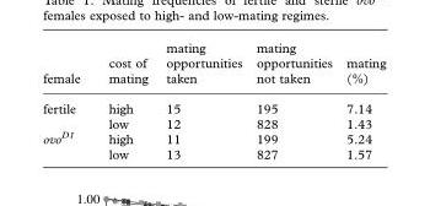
<table><thead><tr><td>female</td><td>cost of mating</td><td>mating opportunities taken</td><td>mating opportunities not taken</td><td>mating (%)</td></tr></thead><tbody><tr><td rowspan="2">fertile</td><td>high</td><td>15</td><td>195</td><td>7.14</td></tr><tr><td>low</td><td>12</td><td>828</td><td>1.43</td></tr><tr><td rowspan="2">ovo<sup>D1</sup></td><td>high</td><td>11</td><td>199</td><td>5.24</td></tr><tr><td>low</td><td>13</td><td>827</td><td>1.57</td></tr></tbody></table>